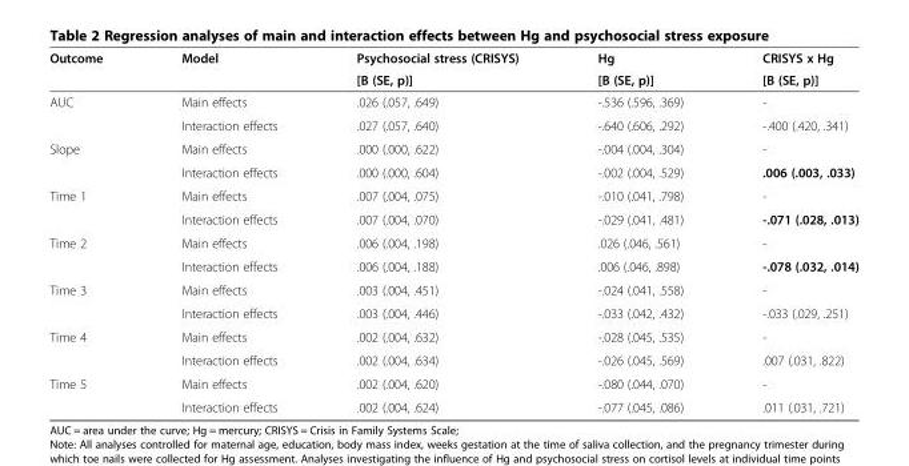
<table><thead><tr><td rowspan="2">Outcome</td><td rowspan="2">Model</td><td rowspan="2">Psychosocial stress (CRISYS) [B (SE, p)]</td><td rowspan="2">Hg [B (SE, p)]</td><td rowspan="2">CRISYS x Hg [B (SE, p)]</td></tr><tr></tr></thead><tbody><tr><td rowspan="2">AUC</td><td>Main effects</td><td>.026 (.057, .649)</td><td>-.536 (.596, .369)</td><td>-</td></tr><tr><td>Interaction effects</td><td>.027 (.057, .640)</td><td>-.640 (.606, .292)</td><td>-.400 (.420, .341)</td></tr><tr><td rowspan="2">Slope</td><td>Main effects</td><td>.000 (.000, .622)</td><td>-.004 (.004, .304)</td><td>-</td></tr><tr><td>Interaction effects</td><td>.000 (.000, .604)</td><td>-.002 (.004, .529)</td><td>.006 (.003, .033)</td></tr><tr><td rowspan="2">Time 1</td><td>Main effects</td><td>.007 (.004, .075)</td><td>-.010 (.041, .798)</td><td>-</td></tr><tr><td>Interaction effects</td><td>.007 (.004, .070)</td><td>-.029 (.041, .481)</td><td>-.071 (.028, .013)</td></tr><tr><td rowspan="2">Time 2</td><td>Main effects</td><td>.006 (.004, .198)</td><td>.026 (.046, .561)</td><td>-</td></tr><tr><td>Interaction effects</td><td>.006 (.004, .188)</td><td>.006 (.046, .898)</td><td>-.078 (.032, .014)</td></tr><tr><td rowspan="2">Time 3</td><td>Main effects</td><td>.003 (.004, .451)</td><td>-.024 (.041, .558)</td><td>-</td></tr><tr><td>Interaction effects</td><td>.003 (.004, .446)</td><td>-.033 (.042, .432)</td><td>-.033 (.029, .251)</td></tr><tr><td rowspan="2">Time 4</td><td>Main effects</td><td>.002 (.004, .632)</td><td>-.028 (.045, .535)</td><td>-</td></tr><tr><td>Interaction effects</td><td>.002 (.004, .634)</td><td>-.026 (.045, .569)</td><td>.007 (.031, .822)</td></tr><tr><td rowspan="2">Time 5</td><td>Main effects</td><td>.002 (.004, .620)</td><td>-.080 (.044, .070)</td><td>-</td></tr><tr><td>Interaction effects</td><td>.002 (.004, .624)</td><td>-.077 (.045, .086)</td><td>.011 (.031, .721)</td></tr></tbody></table>